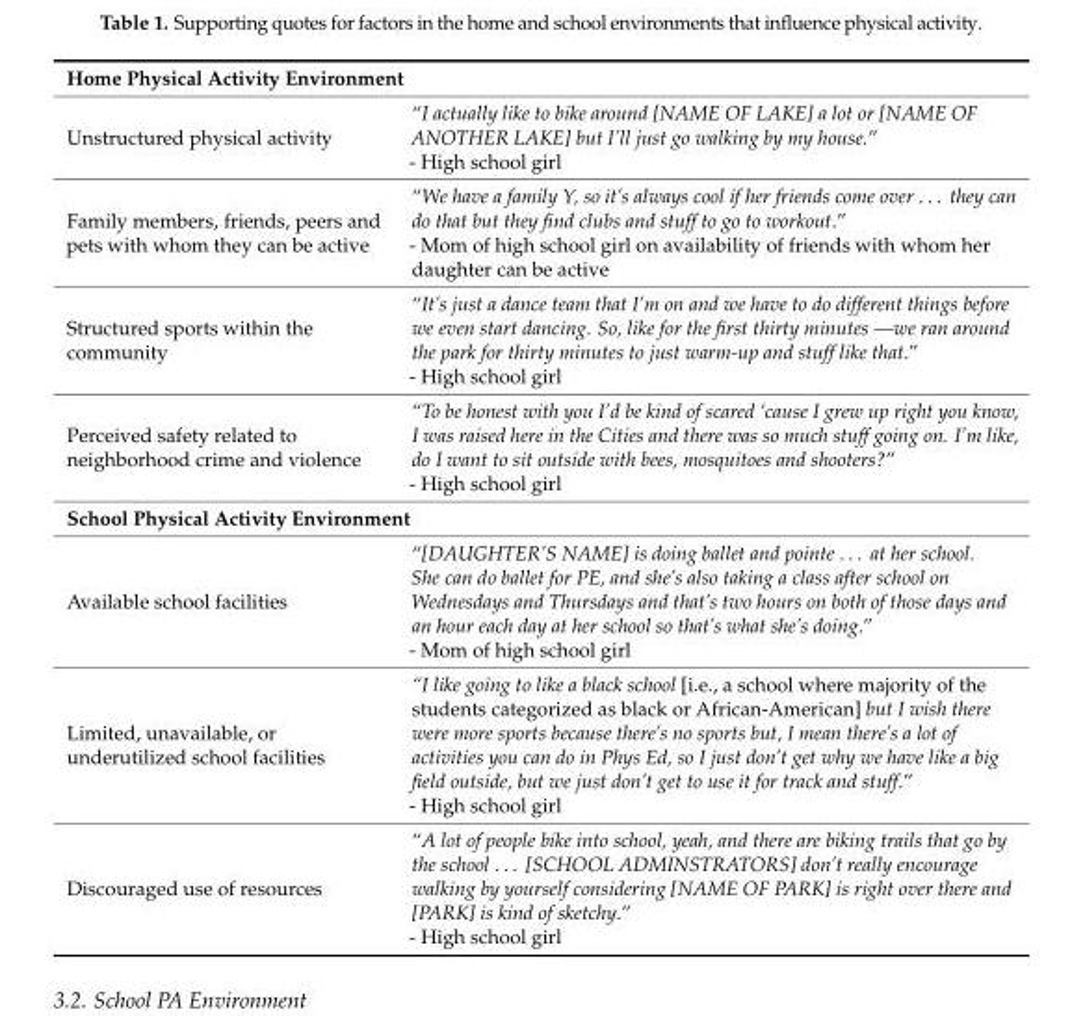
<table><tbody><tr><td colspan="2">Home Physical Activity Environment</td></tr><tr><td>Unstructured physical activity</td><td>“I actually like to bike around [NAME OF LAKE] a lot or [NAME OF ANOTHER LAKE] but I’ll just go walking by my house.” - High school girl</td></tr><tr><td>Family members, friends, peers and pets with whom they can be active</td><td>“We have a family Y, so it’s always cool if her friends come over . . . they can do that but they find clubs and stuff to go to workout.” - Mom of high school girl on availability of friends with whom her daughter can be active</td></tr><tr><td>Structured sports within the community</td><td>“It’s just a dance team that I’m on and we have to do different things before we even start dancing. So, like for the first thirty minutes —we ran around the park for thirty minutes to just warm-up and stuff like that.” - High school girl</td></tr><tr><td>Perceived safety related to neighborhood crime and violence</td><td>“To be honest with you I’d be kind of scared ‘cause I grew up right you know, I was raised here in the Cities and there was so much stuff going on. I’m like, do I want to sit outside with bees, mosquitoes and shooters?” - High school girl</td></tr><tr><td colspan="2">School Physical Activity Environment</td></tr><tr><td>Available school facilities</td><td>“[DAUGHTER’S NAME] is doing ballet and pointe . . . at her school. She can do ballet for PE, and she’s also taking a class after school on Wednesdays and Thursdays and that’s two hours on both of those days and an hour each day at her school so that’s what she’s doing.” - Mom of high school girl</td></tr><tr><td>Limited, unavailable, or underutilized school facilities</td><td>“I like going to like a black school [i.e., a school where majority of the students categorized as black or African-American] but I wish there were more sports because there’s no sports but, I mean there’s a lot of activities you can do in Phys Ed, so I just don’t get why we have like a big field outside, but we just don’t get to use it for track and stuff.” - High school girl</td></tr><tr><td>Discouraged use of resources</td><td>“A lot of people bike into school, yeah, and there are biking trails that go by the school . . . [SCHOOL ADMINSTRATORS] don’t really encourage walking by yourself considering [NAME OF PARK] is right over there and [PARK] is kind of sketchy.” - High school girl</td></tr></tbody></table>